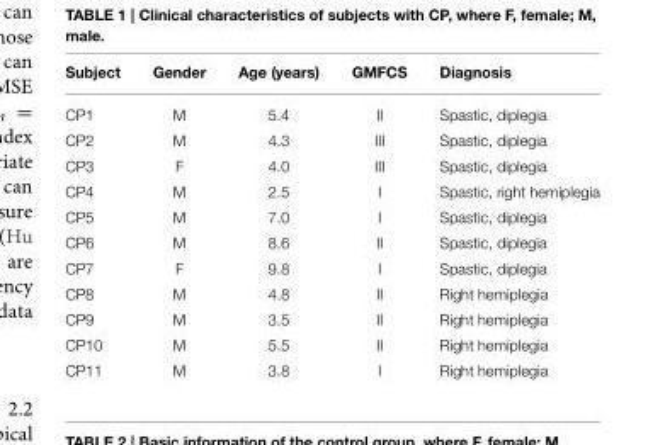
<table><thead><tr><td>Subject</td><td>Gender</td><td>Age (years)</td><td>GMFCS</td><td>Diagnosis</td></tr></thead><tbody><tr><td>CP1</td><td>M</td><td>5.4</td><td>II</td><td>Spastic, diplegia</td></tr><tr><td>CP2</td><td>M</td><td>4.3</td><td>III</td><td>Spastic, diplegia</td></tr><tr><td>CP3</td><td>F</td><td>4.0</td><td>III</td><td>Spastic, diplegia</td></tr><tr><td>CP4</td><td>M</td><td>2.5</td><td>I</td><td>Spastic, right hemiplegia</td></tr><tr><td>CP5</td><td>M</td><td>7.0</td><td>I</td><td>Spastic, diplegia</td></tr><tr><td>CP6</td><td>M</td><td>8.6</td><td>II</td><td>Spastic, diplegia</td></tr><tr><td>CP7</td><td>F</td><td>9.8</td><td>I</td><td>Spastic, diplegia</td></tr><tr><td>CP8</td><td>M</td><td>4.8</td><td>II</td><td>Right hemiplegia</td></tr><tr><td>CP9</td><td>M</td><td>3.5</td><td>II</td><td>Right hemiplegia</td></tr><tr><td>CP10</td><td>M</td><td>5.5</td><td>II</td><td>Right hemiplegia</td></tr><tr><td>CP11</td><td>M</td><td>3.8</td><td>I</td><td>Right hemiplegia</td></tr></tbody></table>